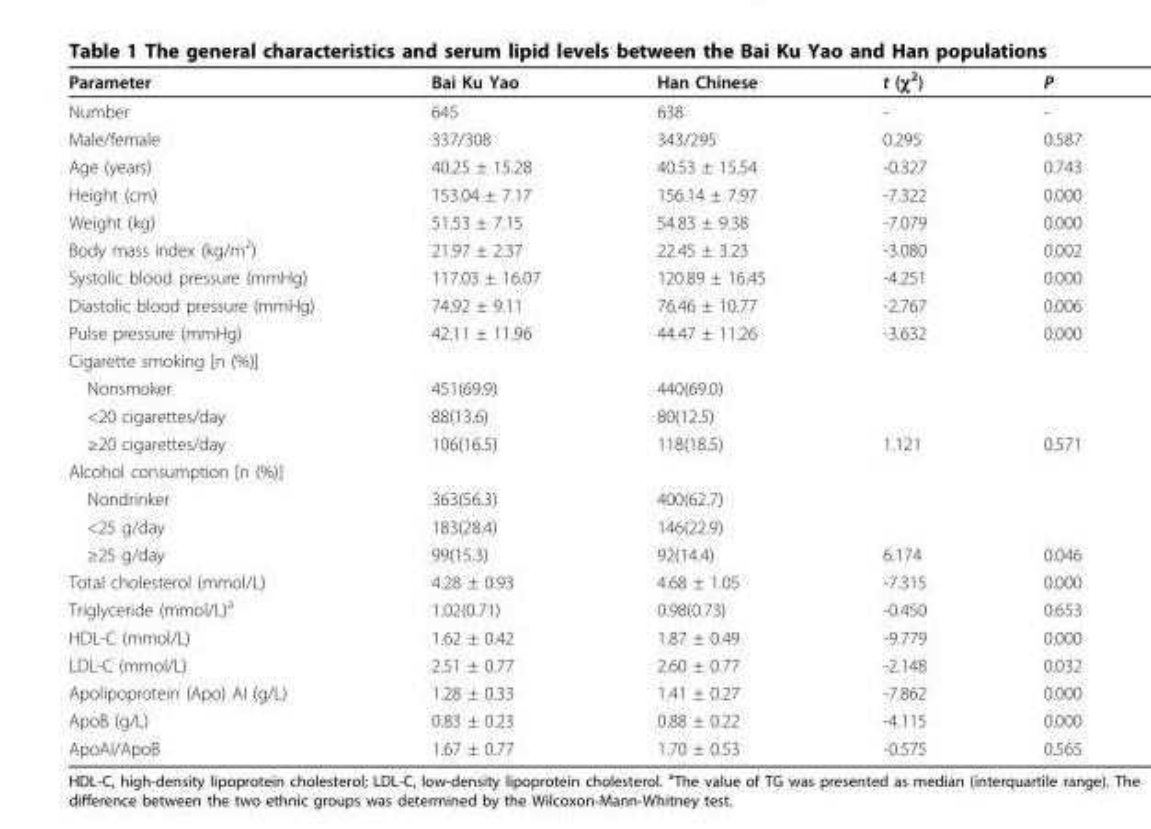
<table><thead><tr><td>Parameter</td><td>Bai Ku Yao</td><td>Han Chinese</td><td>t (χ<sup>2</sup>)</td><td>P</td></tr></thead><tbody><tr><td>Number</td><td>645</td><td>638</td><td>-</td><td>-</td></tr><tr><td>Male/female</td><td>337/308</td><td>343/295</td><td>0.295</td><td>0.587</td></tr><tr><td>Age (years)</td><td>40.25 ± 15.28</td><td>40.53 ± 15.54</td><td>-0.327</td><td>0.743</td></tr><tr><td>Height (cm)</td><td>153.04 ± 7.17</td><td>156.14 ± 7.97</td><td>-7.322</td><td>0.000</td></tr><tr><td>Weight (kg)</td><td>51.53 ± 7.15</td><td>54.83 ± 9.38</td><td>-7.079</td><td>0.000</td></tr><tr><td>Body mass index (kg/m<sup>2</sup>)</td><td>21.97 ± 2.37</td><td>22.45 ± 3.23</td><td>-3.080</td><td>0.002</td></tr><tr><td>Systolic blood pressure (mmHg)</td><td>117.03 ± 16.07</td><td>120.89 ± 16.45</td><td>-4.251</td><td>0.000</td></tr><tr><td>Diastolic blood pressure (mmHg)</td><td>74.92 ± 9.11</td><td>76.46 ± 10.77</td><td>-2.767</td><td>0.006</td></tr><tr><td>Pulse pressure (mmHg)</td><td>42.11 ± 11.96</td><td>44.47 ± 11.26</td><td>-3.632</td><td>0.000</td></tr><tr><td colspan="5">Cigarette smoking [n (%)]</td></tr><tr><td>Nonsmoker</td><td>451(69.9)</td><td>440(69.0)</td><td></td><td></td></tr><tr><td>&lt;20 cigarettes/day</td><td>88(13.6)</td><td>80(12.5)</td><td></td><td></td></tr><tr><td>≥20 cigarettes/day</td><td>106(16.5)</td><td>118(18.5)</td><td>1.121</td><td>0.571</td></tr><tr><td colspan="5">Alcohol consumption [n (%)]</td></tr><tr><td>Nondrinker</td><td>363(56.3)</td><td>400(62.7)</td><td></td><td></td></tr><tr><td>&lt;25 g/day</td><td>183(28.4)</td><td>146(22.9)</td><td></td><td></td></tr><tr><td>≥25 g/day</td><td>99(15.3)</td><td>92(14.4)</td><td>6.174</td><td>0.046</td></tr><tr><td>Total cholesterol (mmol/L)</td><td>4.28 ± 0.93</td><td>4.68 ± 1.05</td><td>-7.315</td><td>0.000</td></tr><tr><td>Triglyceride (mmol/L)<sup>a</sup></td><td>1.02(0.71)</td><td>0.98(0.73)</td><td>-0.450</td><td>0.653</td></tr><tr><td>HDL-C (mmol/L)</td><td>1.62 ± 0.42</td><td>1.87 ± 0.49</td><td>-9.779</td><td>0.000</td></tr><tr><td>LDL-C (mmol/L)</td><td>2.51 ± 0.77</td><td>2.60 ± 0.77</td><td>-2.148</td><td>0.032</td></tr><tr><td>Apolipoprotein (Apo) AI (g/L)</td><td>1.28 ± 0.33</td><td>1.41 ± 0.27</td><td>-7.862</td><td>0.000</td></tr><tr><td>ApoB (g/L)</td><td>0.83 ± 0.23</td><td>0.88 ± 0.22</td><td>-4.115</td><td>0.000</td></tr><tr><td>ApoAI/ApoB</td><td>1.67 ± 0.77</td><td>1.70 ± 0.53</td><td>-0.575</td><td>0.565</td></tr></tbody></table>